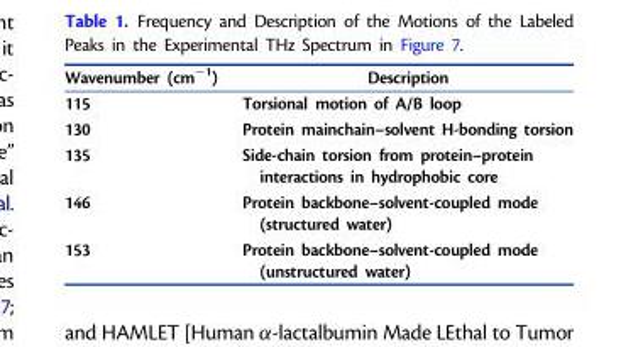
<table><thead><tr><td>Wavenumber (cm<sup>−1</sup>)</td><td>Description</td></tr></thead><tbody><tr><td>115</td><td>Torsional motion of A/B loop</td></tr><tr><td>130</td><td>Protein mainchain–solvent H-bonding torsion</td></tr><tr><td>135</td><td>Side-chain torsion from protein–protein interactions in hydrophobic core</td></tr><tr><td>146</td><td>Protein backbone–solvent-coupled mode (structured water)</td></tr><tr><td>153</td><td>Protein backbone–solvent-coupled mode (unstructured water)</td></tr></tbody></table>